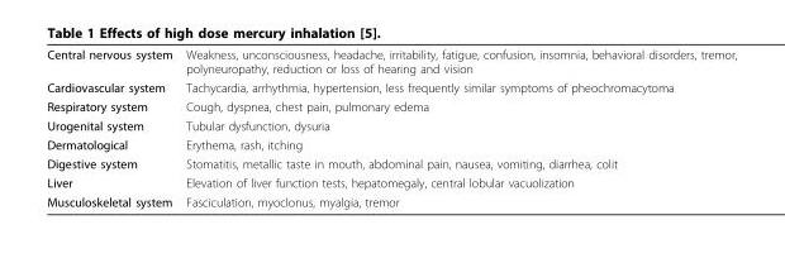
<table><tbody><tr><td>Central nervous system</td><td>Weakness, unconsciousness, headache, irritability, fatigue, confusion, insomnia, behavioral disorders, tremor, polyneuropathy, reduction or loss of hearing and vision</td></tr><tr><td>Cardiovascular system</td><td>Tachycardia, arrhythmia, hypertension, less frequently similar symptoms of pheochromacytoma</td></tr><tr><td>Respiratory system</td><td>Cough, dyspnea, chest pain, pulmonary edema</td></tr><tr><td>Urogenital system</td><td>Tubular dysfunction, dysuria</td></tr><tr><td>Dermatological</td><td>Erythema, rash, itching</td></tr><tr><td>Digestive system</td><td>Stomatitis, metallic taste in mouth, abdominal pain, nausea, vomiting, diarrhea, colit</td></tr><tr><td>Liver</td><td>Elevation of liver function tests, hepatomegaly, central lobular vacuolization</td></tr><tr><td>Musculoskeletal system</td><td>Fasciculation, myoclonus, myalgia, tremor</td></tr></tbody></table>